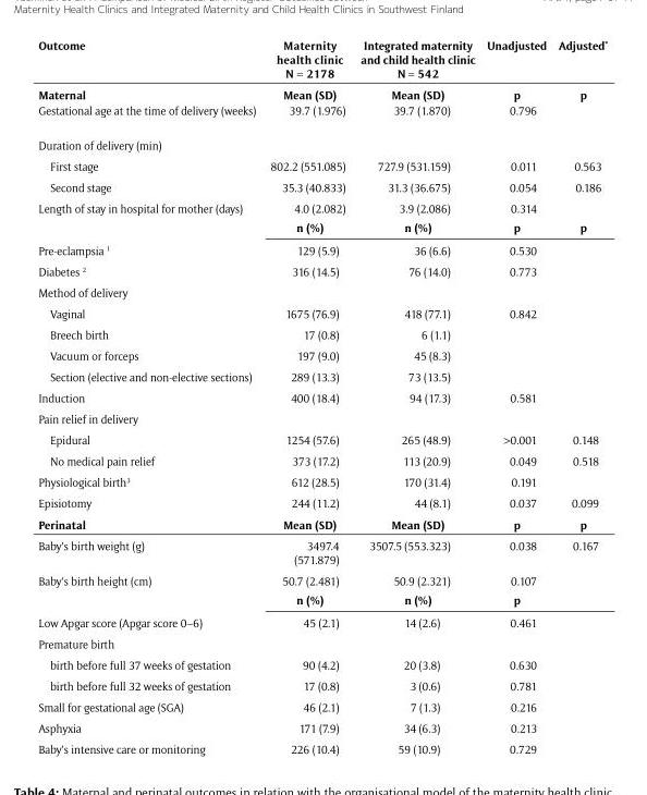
<table><thead><tr><td>Outcome</td><td>Maternity health clinic N = 2178</td><td>Integrated maternity and child health clinic N = 542</td><td>Unadjusted</td><td>Adjusted*</td></tr></thead><tbody><tr><td>Maternal</td><td>Mean (SD)</td><td>Mean (SD)</td><td>p</td><td>p</td></tr><tr><td>Gestational age at the time of delivery (weeks)</td><td>39.7 (1.976)</td><td>39.7 (1.870)</td><td>0.796</td><td></td></tr><tr><td colspan="5">Duration of delivery (min)</td></tr><tr><td>First stage</td><td>802.2 (551.085)</td><td>727.9 (531.159)</td><td>0.011</td><td>0.563</td></tr><tr><td>Second stage</td><td>35.3 (40.833)</td><td>31.3 (36.675)</td><td>0.054</td><td>0.186</td></tr><tr><td rowspan="2">Length of stay in hospital for mother (days)</td><td>4.0 (2.082)</td><td>3.9 (2.086)</td><td>0.314</td><td></td></tr><tr><td>n (%)</td><td>n (%)</td><td>p</td><td>p</td></tr><tr><td>Pre-eclampsia <sup>1</sup></td><td>129 (5.9)</td><td>36 (6.6)</td><td>0.530</td><td></td></tr><tr><td>Diabetes <sup>2</sup></td><td>316 (14.5)</td><td>76 (14.0)</td><td>0.773</td><td></td></tr><tr><td colspan="5">Method of delivery</td></tr><tr><td>Vaginal</td><td>1675 (76.9)</td><td>418 (77.1)</td><td>0.842</td><td></td></tr><tr><td>Breech birth</td><td>17 (0.8)</td><td>6 (1.1)</td><td></td><td></td></tr><tr><td>Vacuum or forceps</td><td>197 (9.0)</td><td>45 (8.3)</td><td></td><td></td></tr><tr><td>Section (elective and non-elective sections)</td><td>289 (13.3)</td><td>73 (13.5)</td><td></td><td></td></tr><tr><td>Induction</td><td>400 (18.4)</td><td>94 (17.3)</td><td>0.581</td><td></td></tr><tr><td colspan="5">Pain relief in delivery</td></tr><tr><td>Epidural</td><td>1254 (57.6)</td><td>265 (48.9)</td><td>&gt;0.001</td><td>0.148</td></tr><tr><td>No medical pain relief</td><td>373 (17.2)</td><td>113 (20.9)</td><td>0.049</td><td>0.518</td></tr><tr><td>Physiological birth<sup>3</sup></td><td>612 (28.5)</td><td>170 (31.4)</td><td>0.191</td><td></td></tr><tr><td>Episiotomy</td><td>244 (11.2)</td><td>44 (8.1)</td><td>0.037</td><td>0.099</td></tr><tr><td>Perinatal</td><td>Mean (SD)</td><td>Mean (SD)</td><td>p</td><td>p</td></tr><tr><td>Baby’s birth weight (g)</td><td>3497.4 (571.879)</td><td>3507.5 (553.323)</td><td>0.038</td><td>0.167</td></tr><tr><td rowspan="2">Baby’s birth height (cm)</td><td>50.7 (2.481)</td><td>50.9 (2.321)</td><td>0.107</td><td></td></tr><tr><td>n (%)</td><td>n (%)</td><td>p</td><td></td></tr><tr><td>Low Apgar score (Apgar score 0–6)</td><td>45 (2.1)</td><td>14 (2.6)</td><td>0.461</td><td></td></tr><tr><td colspan="5">Premature birth</td></tr><tr><td>birth before full 37 weeks of gestation</td><td>90 (4.2)</td><td>20 (3.8)</td><td>0.630</td><td></td></tr><tr><td>birth before full 32 weeks of gestation</td><td>17 (0.8)</td><td>3 (0.6)</td><td>0.781</td><td></td></tr><tr><td>Small for gestational age (SGA)</td><td>46 (2.1)</td><td>7 (1.3)</td><td>0.216</td><td></td></tr><tr><td>Asphyxia</td><td>171 (7.9)</td><td>34 (6.3)</td><td>0.213</td><td></td></tr><tr><td>Baby’s intensive care or monitoring</td><td>226 (10.4)</td><td>59 (10.9)</td><td>0.729</td><td></td></tr></tbody></table>